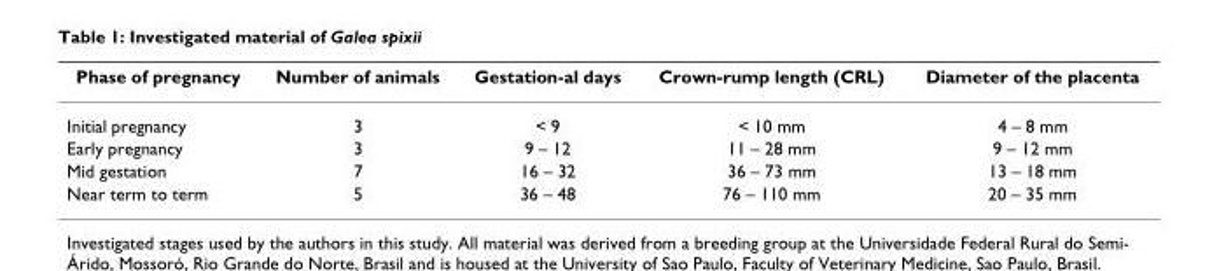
<table><thead><tr><td>Phase of pregnancy</td><td>Number of animals</td><td>Gestation-al days</td><td>Crown-rump length (CRL)</td><td>Diameter of the placenta</td></tr></thead><tbody><tr><td>Initial pregnancy</td><td>3</td><td>&lt; 9</td><td>&lt; 10 mm</td><td>4 – 8 mm</td></tr><tr><td>Early pregnancy</td><td>3</td><td>9 – 12</td><td>11 – 28 mm</td><td>9 – 12 mm</td></tr><tr><td>Mid gestation</td><td>7</td><td>16 – 32</td><td>36 – 73 mm</td><td>13 – 18 mm</td></tr><tr><td>Near term to term</td><td>5</td><td>36 – 48</td><td>76 – 110 mm</td><td>20 – 35 mm</td></tr></tbody></table>